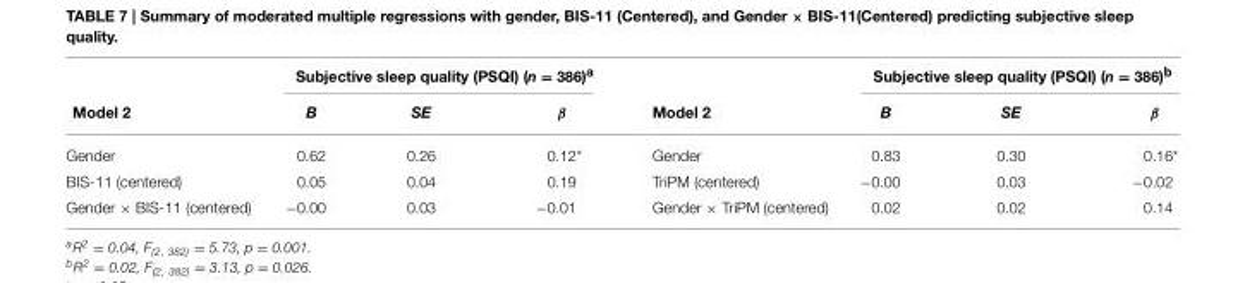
<table><thead><tr><td rowspan="2">Model 2</td><td colspan="3">Subjective sleep quality (PSQI) (n = 386)<sup>a</sup></td><td rowspan="2">Model 2</td><td colspan="3">Subjective sleep quality (PSQI) (n = 386)<sup>b</sup></td></tr><tr><td>B</td><td>SE</td><td>β</td><td>B</td><td>SE</td><td>β</td></tr></thead><tbody><tr><td>Gender</td><td>0.62</td><td>0.26</td><td>0.12*</td><td>Gender</td><td>0.83</td><td>0.30</td><td>0.16*</td></tr><tr><td>BIS-11 (centered)</td><td>0.05</td><td>0.04</td><td>0.19</td><td>TriPM (centered)</td><td>−0.00</td><td>0.03</td><td>−0.02</td></tr><tr><td>Gender × BIS-11 (centered)</td><td>−0.00</td><td>0.03</td><td>−0.01</td><td>Gender × TriPM (centered)</td><td>0.02</td><td>0.02</td><td>0.14</td></tr></tbody></table>